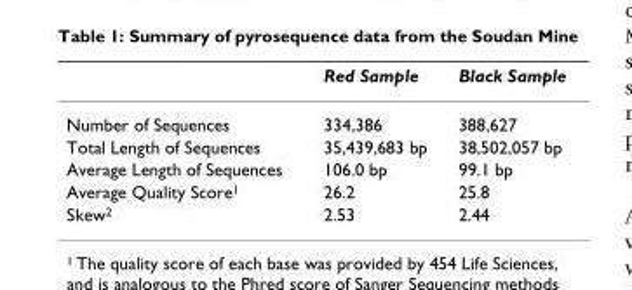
<table><thead><tr><td></td><td>Red Sample</td><td>Black Sample</td></tr></thead><tbody><tr><td>Number of Sequences</td><td>334,386</td><td>388,627</td></tr><tr><td>Total Length of Sequences</td><td>35,439,683 bp</td><td>38,502,057 bp</td></tr><tr><td>Average Length of Sequences</td><td>106.0 bp</td><td>99.1 bp</td></tr><tr><td>Average Quality Score<sup>1</sup></td><td>26.2</td><td>25.8</td></tr><tr><td>Skew<sup>2</sup></td><td>2.53</td><td>2.44</td></tr></tbody></table>